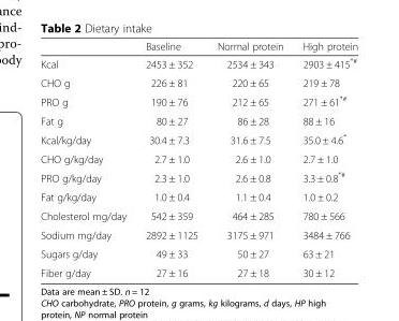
<table><thead><tr><td></td><td>Baseline</td><td>Normal protein</td><td>High protein</td></tr></thead><tbody><tr><td>Kcal</td><td>2453 ± 352</td><td>2534 ± 343</td><td>2903 ± 415<sup>*#</sup></td></tr><tr><td>CHO g</td><td>226 ± 81</td><td>220 ± 65</td><td>219 ± 78</td></tr><tr><td>PRO g</td><td>190 ± 76</td><td>212 ± 65</td><td>271 ± 61<sup>*#</sup></td></tr><tr><td>Fat g</td><td>80 ± 27</td><td>86 ± 28</td><td>88 ± 16</td></tr><tr><td>Kcal/kg/day</td><td>30.4 ± 7.3</td><td>31.6 ± 7.5</td><td>35.0 ± 4.6*</td></tr><tr><td>CHO g/kg/day</td><td>2.7 ± 1.0</td><td>2.6 ± 1.0</td><td>2.7 ± 1.0</td></tr><tr><td>PRO g/kg/day</td><td>2.3 ± 1.0</td><td>2.6 ± 0.8</td><td>3.3 ± 0.8<sup>*#</sup></td></tr><tr><td>Fat g/kg/day</td><td>1.0 ± 0.4</td><td>1.1 ± 0.4</td><td>1.0 ± 0.2</td></tr><tr><td>Cholesterol mg/day</td><td>542 ± 359</td><td>464 ± 285</td><td>780 ± 566</td></tr><tr><td>Sodium mg/day</td><td>2892 ± 1125</td><td>3175 ± 971</td><td>3484 ± 766</td></tr><tr><td>Sugars g/day</td><td>49 ± 33</td><td>50 ± 27</td><td>63 ± 21</td></tr><tr><td>Fiber g/day</td><td>27 ± 16</td><td>27 ± 18</td><td>30 ± 12</td></tr></tbody></table>